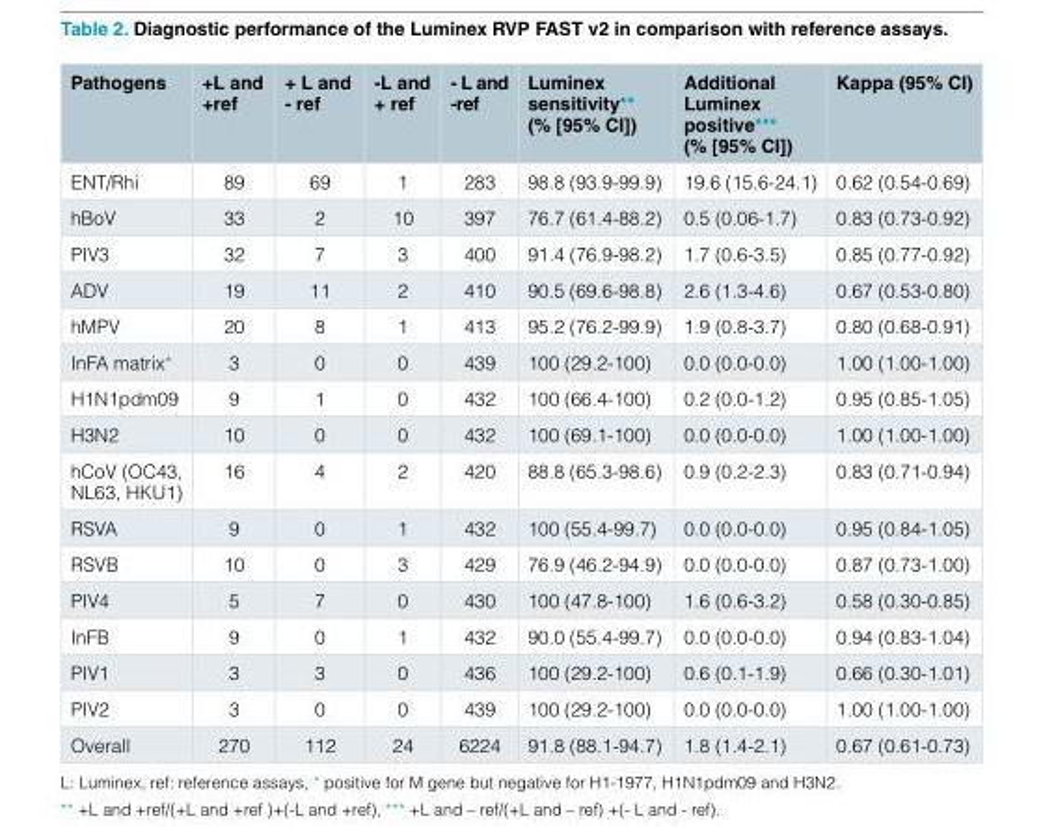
<table><thead><tr><td>Pathogens</td><td>+L and +ref</td><td>+ L and - ref</td><td>-L and + ref</td><td>- L and -ref</td><td>Luminex sensitivity** (% [95% CI])</td><td>Additional Luminex positive*** (% [95% CI])</td><td>Kappa (95% CI)</td></tr></thead><tbody><tr><td>ENT/Rhi</td><td>89</td><td>69</td><td>1</td><td>283</td><td>98.8 (93.9-99.9)</td><td>19.6 (15.6-24.1)</td><td>0.62 (0.54-0.69)</td></tr><tr><td>hBoV</td><td>33</td><td>2</td><td>10</td><td>397</td><td>76.7 (61.4-88.2)</td><td>0.5 (0.06-1.7)</td><td>0.83 (0.73-0.92)</td></tr><tr><td>PIV3</td><td>32</td><td>7</td><td>3</td><td>400</td><td>91.4 (76.9-98.2)</td><td>1.7 (0.6-3.5)</td><td>0.85 (0.77-0.92)</td></tr><tr><td>ADV</td><td>19</td><td>11</td><td>2</td><td>410</td><td>90.5 (69.6-98.8)</td><td>2.6 (1.3-4.6)</td><td>0.67 (0.53-0.80)</td></tr><tr><td>hMPV</td><td>20</td><td>8</td><td>1</td><td>413</td><td>95.2 (76.2-99.9)</td><td>1.9 (0.8-3.7)</td><td>0.80 (0.68-0.91)</td></tr><tr><td>InFA matrix*</td><td>3</td><td>0</td><td>0</td><td>439</td><td>100 (29.2-100)</td><td>0.0 (0.0-0.0)</td><td>1.00 (1.00-1.00)</td></tr><tr><td>H1N1pdm09</td><td>9</td><td>1</td><td>0</td><td>432</td><td>100 (66.4-100)</td><td>0.2 (0.0-1.2)</td><td>0.95 (0.85-1.05)</td></tr><tr><td>H3N2</td><td>10</td><td>0</td><td>0</td><td>432</td><td>100 (69.1-100)</td><td>0.0 (0.0-0.0)</td><td>1.00 (1.00-1.00)</td></tr><tr><td>hCoV (OC43, NL63, HKU1)</td><td>16</td><td>4</td><td>2</td><td>420</td><td>88.8 (65.3-98.6)</td><td>0.9 (0.2-2.3)</td><td>0.83 (0.71-0.94)</td></tr><tr><td>RSVA</td><td>9</td><td>0</td><td>1</td><td>432</td><td>100 (55.4-99.7)</td><td>0.0 (0.0-0.0)</td><td>0.95 (0.84-1.05)</td></tr><tr><td>RSVB</td><td>10</td><td>0</td><td>3</td><td>429</td><td>76.9 (46.2-94.9)</td><td>0.0 (0.0-0.0)</td><td>0.87 (0.73-1.00)</td></tr><tr><td>PIV4</td><td>5</td><td>7</td><td>0</td><td>430</td><td>100 (47.8-100)</td><td>1.6 (0.6-3.2)</td><td>0.58 (0.30-0.85)</td></tr><tr><td>InFB</td><td>9</td><td>0</td><td>1</td><td>432</td><td>90.0 (55.4-99.7)</td><td>0.0 (0.0-0.0)</td><td>0.94 (0.83-1.04)</td></tr><tr><td>PIV1</td><td>3</td><td>3</td><td>0</td><td>436</td><td>100 (29.2-100)</td><td>0.6 (0.1-1.9)</td><td>0.66 (0.30-1.01)</td></tr><tr><td>PIV2</td><td>3</td><td>0</td><td>0</td><td>439</td><td>100 (29.2-100)</td><td>0.0 (0.0-0.0)</td><td>1.00 (1.00-1.00)</td></tr><tr><td>Overall</td><td>270</td><td>112</td><td>24</td><td>6224</td><td>91.8 (88.1-94.7)</td><td>1.8 (1.4-2.1)</td><td>0.67 (0.61-0.73)</td></tr></tbody></table>